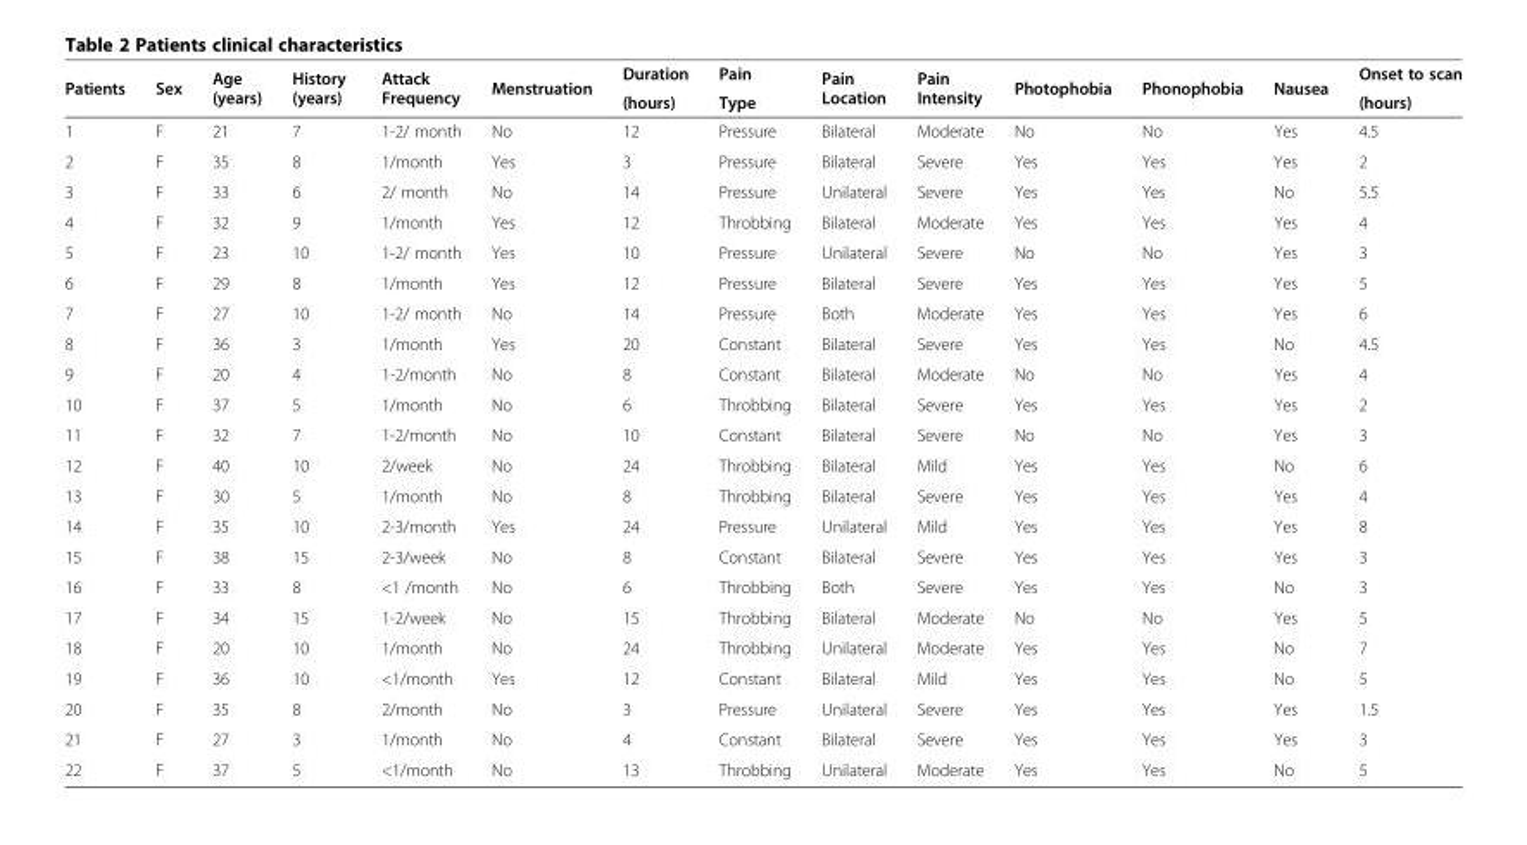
<table><thead><tr><td rowspan="2">Patients</td><td rowspan="2">Sex</td><td rowspan="2">Age (years)</td><td rowspan="2">History (years)</td><td rowspan="2">Attack Frequency</td><td rowspan="2">Menstruation</td><td rowspan="2">Duration (hours)</td><td rowspan="2">Pain Type</td><td rowspan="2">Pain Location</td><td rowspan="2">Pain Intensity</td><td rowspan="2">Photophobia</td><td rowspan="2">Phonophobia</td><td rowspan="2">Nausea</td><td rowspan="2">Onset to scan (hours)</td></tr><tr></tr></thead><tbody><tr><td>1</td><td>F</td><td>21</td><td>7</td><td>1-2/ month</td><td>No</td><td>12</td><td>Pressure</td><td>Bilateral</td><td>Moderate</td><td>No</td><td>No</td><td>Yes</td><td>4.5</td></tr><tr><td>2</td><td>F</td><td>35</td><td>8</td><td>1/month</td><td>Yes</td><td>3</td><td>Pressure</td><td>Bilateral</td><td>Severe</td><td>Yes</td><td>Yes</td><td>Yes</td><td>2</td></tr><tr><td>3</td><td>F</td><td>33</td><td>6</td><td>2/ month</td><td>No</td><td>14</td><td>Pressure</td><td>Unilateral</td><td>Severe</td><td>Yes</td><td>Yes</td><td>No</td><td>5.5</td></tr><tr><td>4</td><td>F</td><td>32</td><td>9</td><td>1/month</td><td>Yes</td><td>12</td><td>Throbbing</td><td>Bilateral</td><td>Moderate</td><td>Yes</td><td>Yes</td><td>Yes</td><td>4</td></tr><tr><td>5</td><td>F</td><td>23</td><td>10</td><td>1-2/ month</td><td>Yes</td><td>10</td><td>Pressure</td><td>Unilateral</td><td>Severe</td><td>No</td><td>No</td><td>Yes</td><td>3</td></tr><tr><td>6</td><td>F</td><td>29</td><td>8</td><td>1/month</td><td>Yes</td><td>12</td><td>Pressure</td><td>Bilateral</td><td>Severe</td><td>Yes</td><td>Yes</td><td>Yes</td><td>5</td></tr><tr><td>7</td><td>F</td><td>27</td><td>10</td><td>1-2/ month</td><td>No</td><td>14</td><td>Pressure</td><td>Both</td><td>Moderate</td><td>Yes</td><td>Yes</td><td>Yes</td><td>6</td></tr><tr><td>8</td><td>F</td><td>36</td><td>3</td><td>1/month</td><td>Yes</td><td>20</td><td>Constant</td><td>Bilateral</td><td>Severe</td><td>Yes</td><td>Yes</td><td>No</td><td>4.5</td></tr><tr><td>9</td><td>F</td><td>20</td><td>4</td><td>1-2/month</td><td>No</td><td>8</td><td>Constant</td><td>Bilateral</td><td>Moderate</td><td>No</td><td>No</td><td>Yes</td><td>4</td></tr><tr><td>10</td><td>F</td><td>37</td><td>5</td><td>1/month</td><td>No</td><td>6</td><td>Throbbing</td><td>Bilateral</td><td>Severe</td><td>Yes</td><td>Yes</td><td>Yes</td><td>2</td></tr><tr><td>11</td><td>F</td><td>32</td><td>7</td><td>1-2/month</td><td>No</td><td>10</td><td>Constant</td><td>Bilateral</td><td>Severe</td><td>No</td><td>No</td><td>Yes</td><td>3</td></tr><tr><td>12</td><td>F</td><td>40</td><td>10</td><td>2/week</td><td>No</td><td>24</td><td>Throbbing</td><td>Bilateral</td><td>Mild</td><td>Yes</td><td>Yes</td><td>No</td><td>6</td></tr><tr><td>13</td><td>F</td><td>30</td><td>5</td><td>1/month</td><td>No</td><td>8</td><td>Throbbing</td><td>Bilateral</td><td>Severe</td><td>Yes</td><td>Yes</td><td>Yes</td><td>4</td></tr><tr><td>14</td><td>F</td><td>35</td><td>10</td><td>2-3/month</td><td>Yes</td><td>24</td><td>Pressure</td><td>Unilateral</td><td>Mild</td><td>Yes</td><td>Yes</td><td>Yes</td><td>8</td></tr><tr><td>15</td><td>F</td><td>38</td><td>15</td><td>2-3/week</td><td>No</td><td>8</td><td>Constant</td><td>Bilateral</td><td>Severe</td><td>Yes</td><td>Yes</td><td>Yes</td><td>3</td></tr><tr><td>16</td><td>F</td><td>33</td><td>8</td><td>&lt;1 /month</td><td>No</td><td>6</td><td>Throbbing</td><td>Both</td><td>Severe</td><td>Yes</td><td>Yes</td><td>No</td><td>3</td></tr><tr><td>17</td><td>F</td><td>34</td><td>15</td><td>1-2/week</td><td>No</td><td>15</td><td>Throbbing</td><td>Bilateral</td><td>Moderate</td><td>No</td><td>No</td><td>Yes</td><td>5</td></tr><tr><td>18</td><td>F</td><td>20</td><td>10</td><td>1/month</td><td>No</td><td>24</td><td>Throbbing</td><td>Unilateral</td><td>Moderate</td><td>Yes</td><td>Yes</td><td>No</td><td>7</td></tr><tr><td>19</td><td>F</td><td>36</td><td>10</td><td>&lt;1/month</td><td>Yes</td><td>12</td><td>Constant</td><td>Bilateral</td><td>Mild</td><td>Yes</td><td>Yes</td><td>No</td><td>5</td></tr><tr><td>20</td><td>F</td><td>35</td><td>8</td><td>2/month</td><td>No</td><td>3</td><td>Pressure</td><td>Unilateral</td><td>Severe</td><td>Yes</td><td>Yes</td><td>Yes</td><td>1.5</td></tr><tr><td>21</td><td>F</td><td>27</td><td>3</td><td>1/month</td><td>No</td><td>4</td><td>Constant</td><td>Bilateral</td><td>Severe</td><td>Yes</td><td>Yes</td><td>Yes</td><td>3</td></tr><tr><td>22</td><td>F</td><td>37</td><td>5</td><td>&lt;1/month</td><td>No</td><td>13</td><td>Throbbing</td><td>Unilateral</td><td>Moderate</td><td>Yes</td><td>Yes</td><td>No</td><td>5</td></tr></tbody></table>